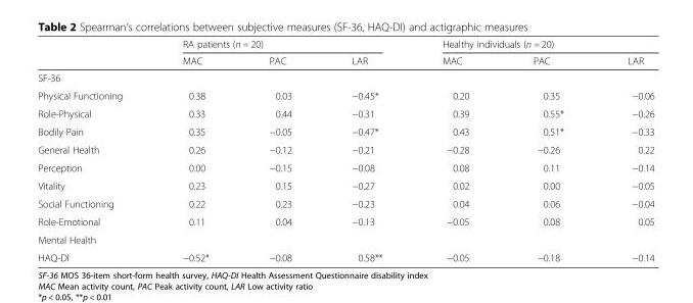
<table><thead><tr><td rowspan="2"></td><td colspan="3">RA patients (n = 20)</td><td colspan="3">Healthy individuals (n = 20)</td></tr><tr><td>MAC</td><td>PAC</td><td>LAR</td><td>MAC</td><td>PAC</td><td>LAR</td></tr></thead><tbody><tr><td colspan="7">SF-36</td></tr><tr><td>Physical Functioning</td><td>0.38</td><td>0.03</td><td>−0.45*</td><td>0.20</td><td>0.35</td><td>−0.06</td></tr><tr><td>Role-Physical</td><td>0.33</td><td>0.44</td><td>−0.31</td><td>0.39</td><td>0.55*</td><td>−0.26</td></tr><tr><td>Bodily Pain</td><td>0.35</td><td>−0.05</td><td>−0.47*</td><td>0.43</td><td>0.51*</td><td>−0.33</td></tr><tr><td>General Health</td><td>0.26</td><td>−0.12</td><td>−0.21</td><td>−0.28</td><td>−0.26</td><td>0.22</td></tr><tr><td>Perception</td><td>0.00</td><td>−0.15</td><td>−0.08</td><td>0.08</td><td>0.11</td><td>−0.14</td></tr><tr><td>Vitality</td><td>0.23</td><td>0.15</td><td>−0.27</td><td>0.02</td><td>0.00</td><td>−0.05</td></tr><tr><td>Social Functioning</td><td>0.22</td><td>0.23</td><td>−0.23</td><td>0.04</td><td>0.06</td><td>−0.04</td></tr><tr><td>Role-Emotional</td><td>0.11</td><td>0.04</td><td>−0.13</td><td>−0.05</td><td>0.08</td><td>0.05</td></tr><tr><td colspan="7">Mental Health</td></tr><tr><td>HAQ-DI</td><td>−0.52*</td><td>−0.08</td><td>0.58**</td><td>−0.05</td><td>−0.18</td><td>−0.14</td></tr></tbody></table>